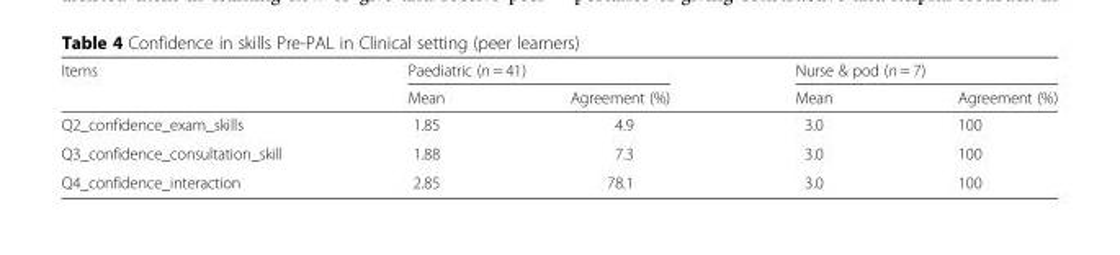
<table><thead><tr><td rowspan="2">Items</td><td colspan="2">Paediatric (n = 41)</td><td colspan="2">Nurse &amp; pod (n = 7)</td></tr><tr><td>Mean</td><td>Agreement (%)</td><td>Mean</td><td>Agreement (%)</td></tr></thead><tbody><tr><td>Q2_confidence_exam_skills</td><td>1.85</td><td>4.9</td><td>3.0</td><td>100</td></tr><tr><td>Q3_confidence_consultation_skill</td><td>1.88</td><td>7.3</td><td>3.0</td><td>100</td></tr><tr><td>Q4_confidence_interaction</td><td>2.85</td><td>78.1</td><td>3.0</td><td>100</td></tr></tbody></table>